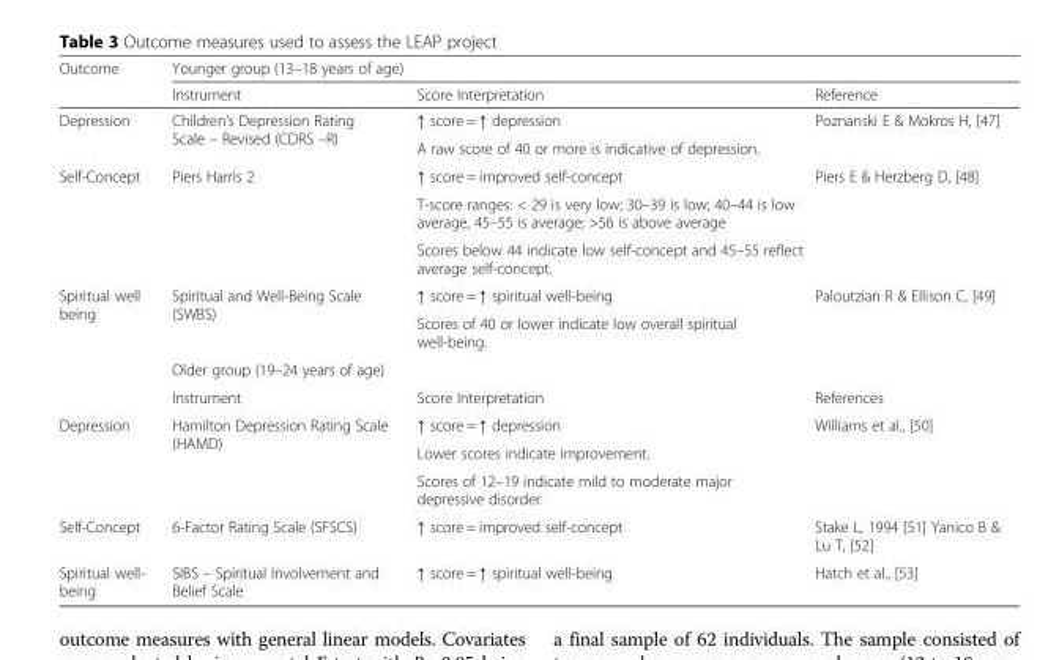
<table><thead><tr><td rowspan="2">Outcome</td><td colspan="3">Younger group (13–18 years of age)</td></tr><tr><td>Instrument</td><td>Score Interpretation</td><td>Reference</td></tr></thead><tbody><tr><td rowspan="2">Depression</td><td rowspan="2">Children’s Depression Rating Scale – Revised (CDRS –R)</td><td>↑ score = ↑ depression</td><td rowspan="2">Poznanski E &amp; Mokros H, [47]</td></tr><tr><td>A raw score of 40 or more is indicative of depression.</td></tr><tr><td rowspan="3">Self-Concept</td><td rowspan="3">Piers Harris 2</td><td>↑ score = improved self-concept</td><td rowspan="3">Piers E &amp; Herzberg D, [48]</td></tr><tr><td>T-score ranges: &lt; 29 is very low; 30–39 is low; 40–44 is low average, 45–55 is average; &gt;56 is above average</td></tr><tr><td>Scores below 44 indicate low self-concept and 45–55 reflect average self-concept.</td></tr><tr><td rowspan="4">Spiritual well being</td><td rowspan="2">Spiritual and Well-Being Scale (SWBS)</td><td>↑ score = ↑ spiritual well-being</td><td rowspan="2">Paloutzian R &amp; Ellison C, [49]</td></tr><tr><td>Scores of 40 or lower indicate low overall spiritual well-being.</td></tr><tr><td colspan="3">Older group (19–24 years of age)</td></tr><tr><td>Instrument</td><td>Score Interpretation</td><td>References</td></tr><tr><td rowspan="3">Depression</td><td rowspan="3">Hamilton Depression Rating Scale (HAMD)</td><td>↑ score = ↑ depression</td><td rowspan="3">Williams et al., [50]</td></tr><tr><td>Lower scores indicate improvement.</td></tr><tr><td>Scores of 12–19 indicate mild to moderate major depressive disorder.</td></tr><tr><td>Self-Concept</td><td>6-Factor Rating Scale (SFSCS)</td><td>↑ score = improved self-concept</td><td>Stake L, 1994 [51] Yanico B &amp; Lu T, [52]</td></tr><tr><td>Spiritual well- being</td><td>SIBS – Spiritual Involvement and Belief Scale</td><td>↑ score = ↑ spiritual well-being</td><td>Hatch et al., [53]</td></tr></tbody></table>